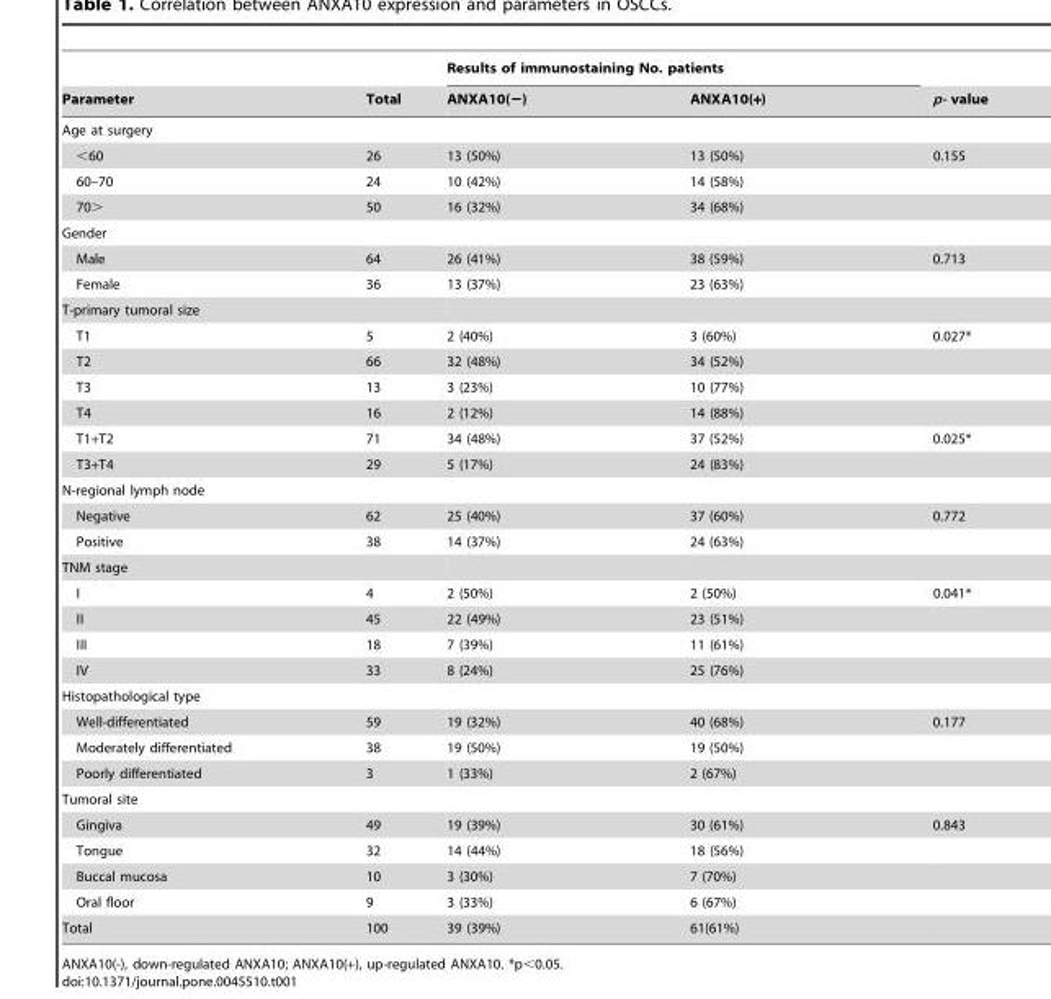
<table><thead><tr><td rowspan="2">Parameter</td><td rowspan="2">Total</td><td colspan="2">Results of immunostaining No. patients</td><td rowspan="2">p- value</td></tr><tr><td>ANXA10(−)</td><td>ANXA10(+)</td></tr></thead><tbody><tr><td colspan="5">Age at surgery</td></tr><tr><td>&lt;60</td><td>26</td><td>13 (50%)</td><td>13 (50%)</td><td>0.155</td></tr><tr><td>60–70</td><td>24</td><td>10 (42%)</td><td>14 (58%)</td><td></td></tr><tr><td>70&gt;</td><td>50</td><td>16 (32%)</td><td>34 (68%)</td><td></td></tr><tr><td colspan="5">Gender</td></tr><tr><td>Male</td><td>64</td><td>26 (41%)</td><td>38 (59%)</td><td>0.713</td></tr><tr><td>Female</td><td>36</td><td>13 (37%)</td><td>23 (63%)</td><td></td></tr><tr><td colspan="5">T-primary tumoral size</td></tr><tr><td>T1</td><td>5</td><td>2 (40%)</td><td>3 (60%)</td><td>0.027*</td></tr><tr><td>T2</td><td>66</td><td>32 (48%)</td><td>34 (52%)</td><td></td></tr><tr><td>T3</td><td>13</td><td>3 (23%)</td><td>10 (77%)</td><td></td></tr><tr><td>T4</td><td>16</td><td>2 (12%)</td><td>14 (88%)</td><td></td></tr><tr><td>T1+T2</td><td>71</td><td>34 (48%)</td><td>37 (52%)</td><td>0.025*</td></tr><tr><td>T3+T4</td><td>29</td><td>5 (17%)</td><td>24 (83%)</td><td></td></tr><tr><td colspan="5">N-regional lymph node</td></tr><tr><td>Negative</td><td>62</td><td>25 (40%)</td><td>37 (60%)</td><td>0.772</td></tr><tr><td>Positive</td><td>38</td><td>14 (37%)</td><td>24 (63%)</td><td></td></tr><tr><td colspan="5">TNM stage</td></tr><tr><td>I</td><td>4</td><td>2 (50%)</td><td>2 (50%)</td><td>0.041*</td></tr><tr><td>II</td><td>45</td><td>22 (49%)</td><td>23 (51%)</td><td></td></tr><tr><td>III</td><td>18</td><td>7 (39%)</td><td>11 (61%)</td><td></td></tr><tr><td>IV</td><td>33</td><td>8 (24%)</td><td>25 (76%)</td><td></td></tr><tr><td colspan="5">Histopathological type</td></tr><tr><td>Well-differentiated</td><td>59</td><td>19 (32%)</td><td>40 (68%)</td><td>0.177</td></tr><tr><td>Moderately differentiated</td><td>38</td><td>19 (50%)</td><td>19 (50%)</td><td></td></tr><tr><td>Poorly differentiated</td><td>3</td><td>1 (33%)</td><td>2 (67%)</td><td></td></tr><tr><td colspan="5">Tumoral site</td></tr><tr><td>Gingiva</td><td>49</td><td>19 (39%)</td><td>30 (61%)</td><td>0.843</td></tr><tr><td>Tongue</td><td>32</td><td>14 (44%)</td><td>18 (56%)</td><td></td></tr><tr><td>Buccal mucosa</td><td>10</td><td>3 (30%)</td><td>7 (70%)</td><td></td></tr><tr><td>Oral floor</td><td>9</td><td>3 (33%)</td><td>6 (67%)</td><td></td></tr><tr><td>Total</td><td>100</td><td>39 (39%)</td><td>61(61%)</td><td></td></tr></tbody></table>